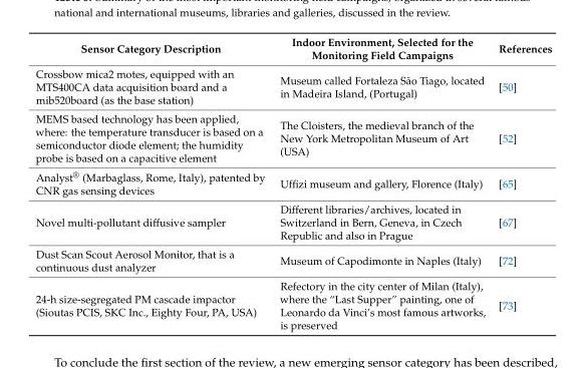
<table><thead><tr><td>Sensor Category Description</td><td>Indoor Environment, Selected for the Monitoring Field Campaigns</td><td>References</td></tr></thead><tbody><tr><td>Crossbow mica2 motes, equipped with an MTS400CA data acquisition board and a mib520board (as the base station)</td><td>Museum called Fortaleza São Tiago, located in Madeira Island, (Portugal)</td><td>[50]</td></tr><tr><td>MEMS based technology has been applied, where: the temperature transducer is based on a semiconductor diode element; the humidity probe is based on a capacitive element</td><td>The Cloisters, the medieval branch of the New York Metropolitan Museum of Art (USA)</td><td>[52]</td></tr><tr><td>Analyst® (Marbaglass, Rome, Italy), patented by CNR gas sensing devices</td><td>Uffizi museum and gallery, Florence (Italy)</td><td>[65]</td></tr><tr><td>Novel multi-pollutant diffusive sampler</td><td>Different libraries/archives, located in Switzerland in Bern, Geneva, in Czech Republic and also in Prague</td><td>[67]</td></tr><tr><td>Dust Scan Scout Aerosol Monitor, that is a continuous dust analyzer</td><td>Museum of Capodimonte in Naples (Italy)</td><td>[72]</td></tr><tr><td>24-h size-segregated PM cascade impactor (Sioutas PCIS, SKC Inc., Eighty Four, PA, USA)</td><td>Refectory in the city center of Milan (Italy), where the “Last Supper” painting, one of Leonardo da Vinci’s most famous artworks, is preserved</td><td>[73]</td></tr></tbody></table>